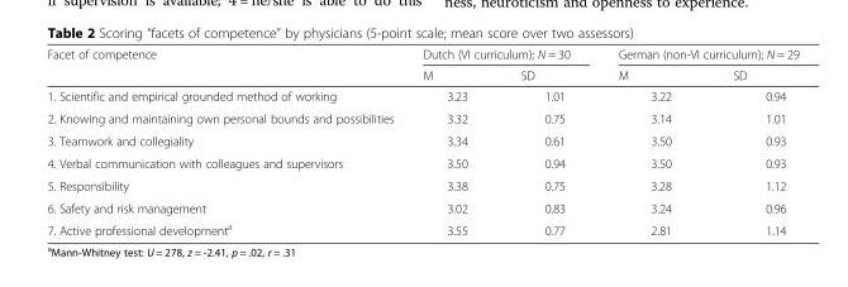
<table><thead><tr><td rowspan="2">Facet of competence</td><td colspan="2">Dutch (VI curriculum); N = 30</td><td colspan="2">German (non-VI curriculum); N = 29</td></tr><tr><td>M</td><td>SD</td><td>M</td><td>SD</td></tr></thead><tbody><tr><td>1. Scientific and empirical grounded method of working</td><td>3.23</td><td>1.01</td><td>3.22</td><td>0.94</td></tr><tr><td>2. Knowing and maintaining own personal bounds and possibilities</td><td>3.32</td><td>0.75</td><td>3.14</td><td>1.01</td></tr><tr><td>3. Teamwork and collegiality</td><td>3.34</td><td>0.61</td><td>3.50</td><td>0.93</td></tr><tr><td>4. Verbal communication with colleagues and supervisors</td><td>3.50</td><td>0.94</td><td>3.50</td><td>0.93</td></tr><tr><td>5. Responsibility</td><td>3.38</td><td>0.75</td><td>3.28</td><td>1.12</td></tr><tr><td>6. Safety and risk management</td><td>3.02</td><td>0.83</td><td>3.24</td><td>0.96</td></tr><tr><td>7. Active professional development<sup>a</sup></td><td>3.55</td><td>0.77</td><td>2.81</td><td>1.14</td></tr></tbody></table>